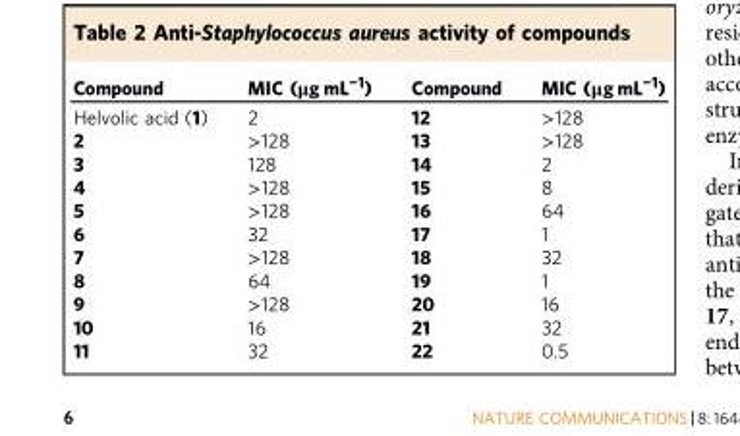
<table><thead><tr><td>Compound</td><td>MIC (μg mL<sup>−1</sup>)</td><td>Compound</td><td>MIC (μg mL<sup>−1</sup>)</td></tr></thead><tbody><tr><td>Helvolic acid (1)</td><td>2</td><td>12</td><td>&gt;128</td></tr><tr><td>2</td><td>&gt;128</td><td>13</td><td>&gt;128</td></tr><tr><td>3</td><td>128</td><td>14</td><td>2</td></tr><tr><td>4</td><td>&gt;128</td><td>15</td><td>8</td></tr><tr><td>5</td><td>&gt;128</td><td>16</td><td>64</td></tr><tr><td>6</td><td>32</td><td>17</td><td>1</td></tr><tr><td>7</td><td>&gt;128</td><td>18</td><td>32</td></tr><tr><td>8</td><td>64</td><td>19</td><td>1</td></tr><tr><td>9</td><td>&gt;128</td><td>20</td><td>16</td></tr><tr><td>10</td><td>16</td><td>21</td><td>32</td></tr><tr><td>11</td><td>32</td><td>22</td><td>0.5</td></tr></tbody></table>